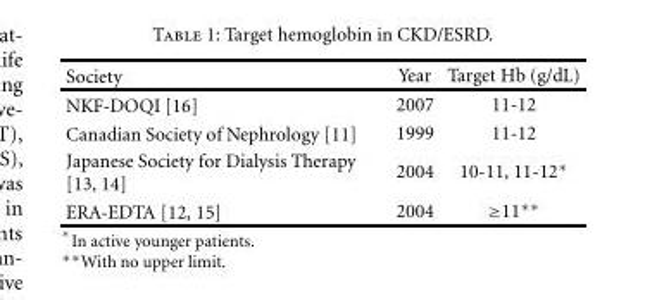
<table><thead><tr><td>Society</td><td>Year</td><td>Target Hb (g/dL)</td></tr></thead><tbody><tr><td>NKF-DOQI [16]</td><td>2007</td><td>11-12</td></tr><tr><td>Canadian Society of Nephrology [11]</td><td>1999</td><td>11-12</td></tr><tr><td>Japanese Society for Dialysis Therapy [13, 14]</td><td>2004</td><td>10-11, 11-12∗</td></tr><tr><td>ERA-EDTA [12, 15]</td><td>2004</td><td>≥11∗∗</td></tr></tbody></table>